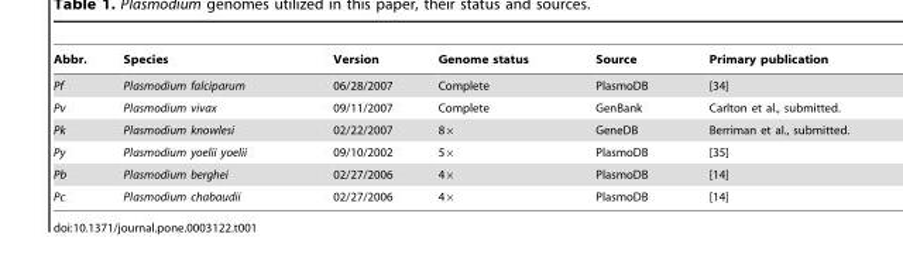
<table><thead><tr><td>Abbr.</td><td>Species</td><td>Version</td><td>Genome status</td><td>Source</td><td>Primary publication</td></tr></thead><tbody><tr><td>Pf</td><td>Plasmodium falciparum</td><td>06/28/2007</td><td>Complete</td><td>PlasmoDB</td><td>[34]</td></tr><tr><td>Pv</td><td>Plasmodium vivax</td><td>09/11/2007</td><td>Complete</td><td>GenBank</td><td>Carlton et al., submitted.</td></tr><tr><td>Pk</td><td>Plasmodium knowlesi</td><td>02/22/2007</td><td>8×</td><td>GeneDB</td><td>Berriman et al., submitted.</td></tr><tr><td>Py</td><td>Plasmodium yoelii yoelii</td><td>09/10/2002</td><td>5×</td><td>PlasmoDB</td><td>[35]</td></tr><tr><td>Pb</td><td>Plasmodium berghei</td><td>02/27/2006</td><td>4×</td><td>PlasmoDB</td><td>[14]</td></tr><tr><td>Pc</td><td>Plasmodium chabaudii</td><td>02/27/2006</td><td>4×</td><td>PlasmoDB</td><td>[14]</td></tr></tbody></table>